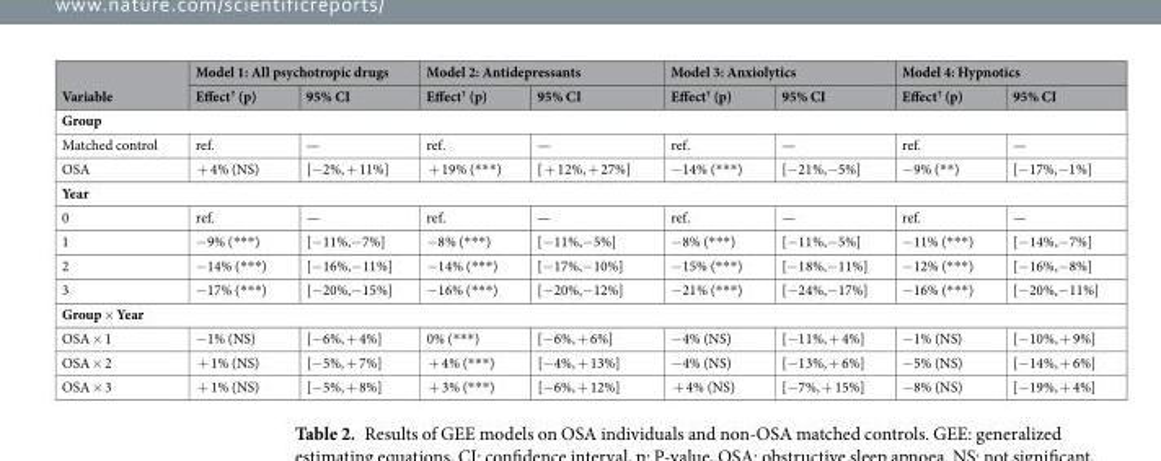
<table><thead><tr><td rowspan="2">Variable</td><td colspan="2">Model 1: All psychotropic drugs</td><td colspan="2">Model 2: Antidepressants</td><td colspan="2">Model 3: Anxiolytics</td><td colspan="2">Model 4: Hypnotics</td></tr><tr><td>Effect<sup>†</sup> (p)</td><td>95% CI</td><td>Effect<sup>†</sup> (p)</td><td>95% CI</td><td>Effect<sup>†</sup> (p)</td><td>95% CI</td><td>Effect<sup>†</sup> (p)</td><td>95% CI</td></tr></thead><tbody><tr><td colspan="9">Group</td></tr><tr><td>Matched control</td><td>ref.</td><td>—</td><td>ref.</td><td>—</td><td>ref.</td><td>—</td><td>ref.</td><td>—</td></tr><tr><td>OSA</td><td>+ 4% (NS)</td><td>[−2%, + 11%]</td><td>+ 19% (***)</td><td>[ + 12%, + 27%]</td><td>−14% (***)</td><td>[−21%,−5%]</td><td>−9% (**)</td><td>[−17%,−1%]</td></tr><tr><td colspan="9">Year</td></tr><tr><td>0</td><td>ref.</td><td>—</td><td>ref.</td><td>—</td><td>ref.</td><td>—</td><td>ref.</td><td>—</td></tr><tr><td>1</td><td>−9% (***)</td><td>[−11%,−7%]</td><td>−8% (***)</td><td>[−11%,−5%]</td><td>−8% (***)</td><td>[−11%,−5%]</td><td>−11% (***)</td><td>[−14%,−7%]</td></tr><tr><td>2</td><td>−14% (***)</td><td>[−16%,−11%]</td><td>−14% (***)</td><td>[−17%,−10%]</td><td>−15% (***)</td><td>[−18%,−11%]</td><td>−12% (***)</td><td>[−16%,−8%]</td></tr><tr><td>3</td><td>−17% (***)</td><td>[−20%,−15%]</td><td>−16% (***)</td><td>[−20%,−12%]</td><td>−21% (***)</td><td>[−24%,−17%]</td><td>−16% (***)</td><td>[−20%,−11%]</td></tr><tr><td colspan="9">Group × Year</td></tr><tr><td>OSA × 1</td><td>−1% (NS)</td><td>[−6%, + 4%]</td><td>0% (***)</td><td>[−6%, + 6%]</td><td>−4% (NS)</td><td>[−11%, + 4%]</td><td>−1% (NS)</td><td>[−10%, + 9%]</td></tr><tr><td>OSA × 2</td><td>+ 1% (NS)</td><td>[−5%, + 7%]</td><td>+ 4% (***)</td><td>[−4%, + 13%]</td><td>−4% (NS)</td><td>[−13%, + 6%]</td><td>−5% (NS)</td><td>[−14%, + 6%]</td></tr><tr><td>OSA × 3</td><td>+ 1% (NS)</td><td>[−5%, + 8%]</td><td>+ 3% (***)</td><td>[−6%, + 12%]</td><td>+ 4% (NS)</td><td>[−7%, + 15%]</td><td>−8% (NS)</td><td>[−19%, + 4%]</td></tr></tbody></table>